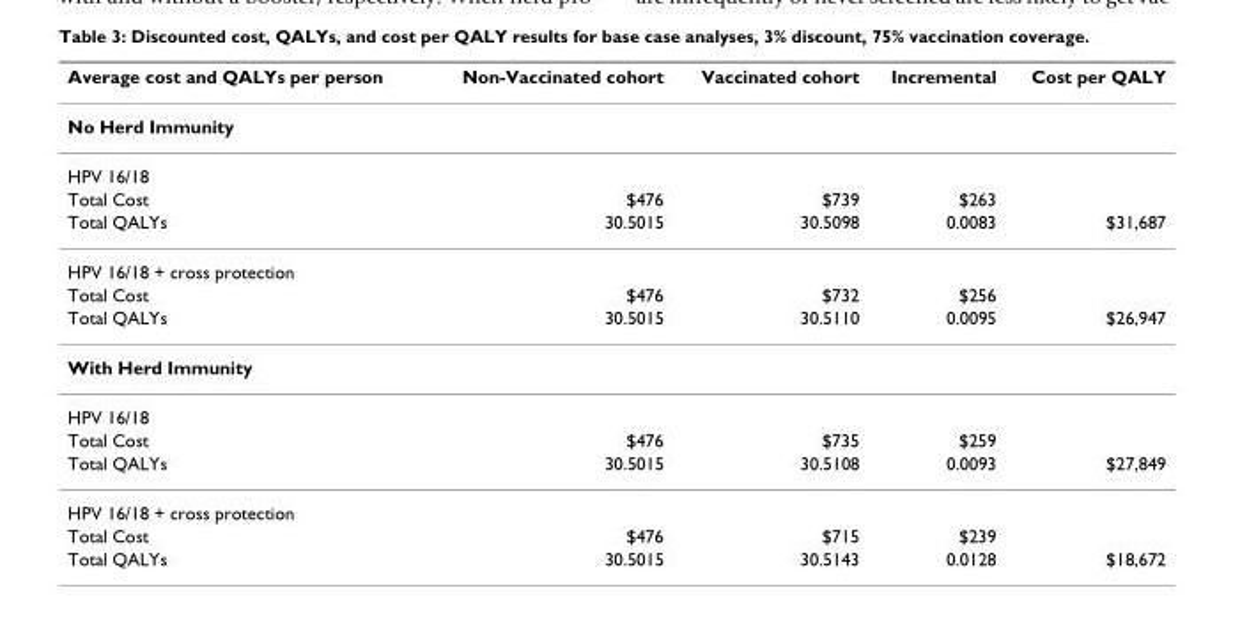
<table><thead><tr><td>Average cost and QALYs per person</td><td>Non-Vaccinated cohort</td><td>Vaccinated cohort</td><td>Incremental</td><td>Cost per QALY</td></tr></thead><tbody><tr><td colspan="5">No Herd Immunity</td></tr><tr><td colspan="5">HPV 16/18</td></tr><tr><td>Total Cost</td><td>$476</td><td>$739</td><td>$263</td><td></td></tr><tr><td>Total QALYs</td><td>30.5015</td><td>30.5098</td><td>0.0083</td><td>$31,687</td></tr><tr><td colspan="5">HPV 16/18 + cross protection</td></tr><tr><td>Total Cost</td><td>$476</td><td>$732</td><td>$256</td><td></td></tr><tr><td>Total QALYs</td><td>30.5015</td><td>30.5110</td><td>0.0095</td><td>$26,947</td></tr><tr><td colspan="5">With Herd Immunity</td></tr><tr><td colspan="5">HPV 16/18</td></tr><tr><td>Total Cost</td><td>$476</td><td>$735</td><td>$259</td><td></td></tr><tr><td>Total QALYs</td><td>30.5015</td><td>30.5108</td><td>0.0093</td><td>$27,849</td></tr><tr><td colspan="5">HPV 16/18 + cross protection</td></tr><tr><td>Total Cost</td><td>$476</td><td>$715</td><td>$239</td><td></td></tr><tr><td>Total QALYs</td><td>30.5015</td><td>30.5143</td><td>0.0128</td><td>$18,672</td></tr></tbody></table>